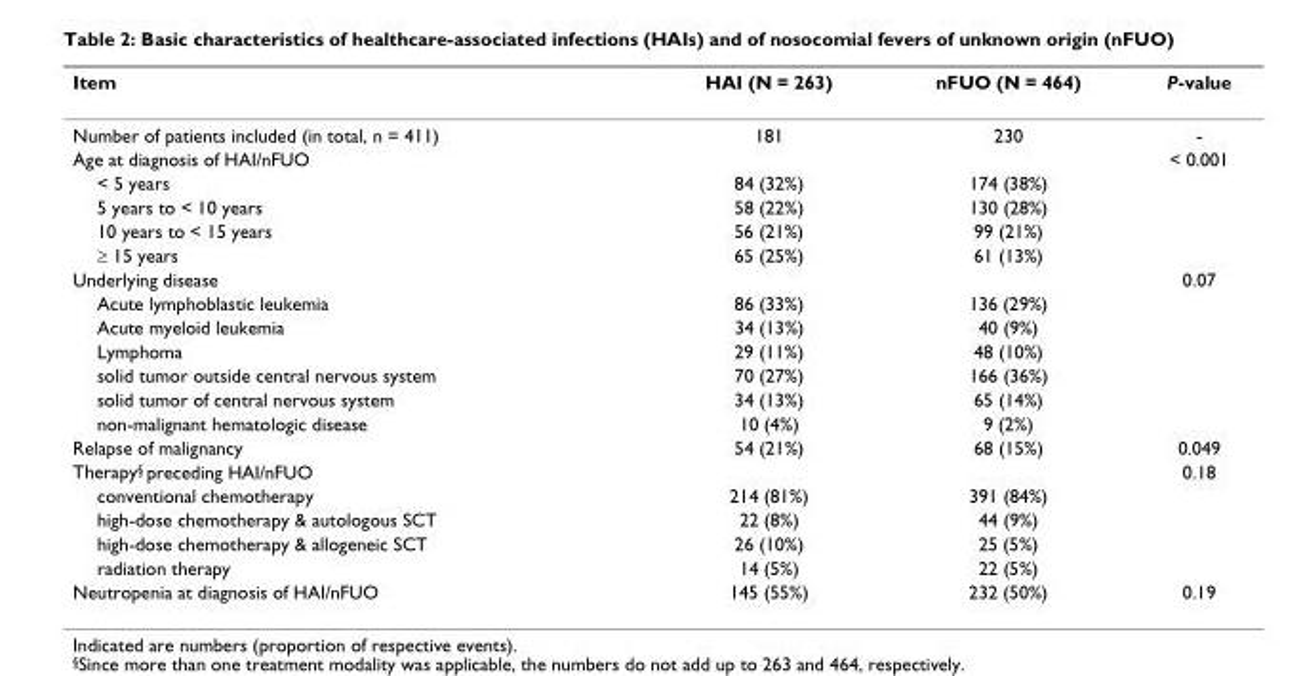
<table><thead><tr><td>Item</td><td>HAI (N = 263)</td><td>nFUO (N = 464)</td><td>P-value</td></tr></thead><tbody><tr><td>Number of patients included (in total, n = 411)</td><td>181</td><td>230</td><td>-</td></tr><tr><td>Age at diagnosis of HAI/nFUO</td><td></td><td></td><td>&lt; 0.001</td></tr><tr><td>&lt; 5 years</td><td>84 (32%)</td><td>174 (38%)</td><td></td></tr><tr><td>5 years to &lt; 10 years</td><td>58 (22%)</td><td>130 (28%)</td><td></td></tr><tr><td>10 years to &lt; 15 years</td><td>56 (21%)</td><td>99 (21%)</td><td></td></tr><tr><td>≥ 15 years</td><td>65 (25%)</td><td>61 (13%)</td><td></td></tr><tr><td>Underlying disease</td><td></td><td></td><td>0.07</td></tr><tr><td>Acute lymphoblastic leukemia</td><td>86 (33%)</td><td>136 (29%)</td><td></td></tr><tr><td>Acute myeloid leukemia</td><td>34 (13%)</td><td>40 (9%)</td><td></td></tr><tr><td>Lymphoma</td><td>29 (11%)</td><td>48 (10%)</td><td></td></tr><tr><td>solid tumor outside central nervous system</td><td>70 (27%)</td><td>166 (36%)</td><td></td></tr><tr><td>solid tumor of central nervous system</td><td>34 (13%)</td><td>65 (14%)</td><td></td></tr><tr><td>non-malignant hematologic disease</td><td>10 (4%)</td><td>9 (2%)</td><td></td></tr><tr><td>Relapse of malignancy</td><td>54 (21%)</td><td>68 (15%)</td><td>0.049</td></tr><tr><td>Therapy<sup>§</sup> preceding HAI/nFUO</td><td></td><td></td><td>0.18</td></tr><tr><td>conventional chemotherapy</td><td>214 (81%)</td><td>391 (84%)</td><td></td></tr><tr><td>high-dose chemotherapy &amp; autologous SCT</td><td>22 (8%)</td><td>44 (9%)</td><td></td></tr><tr><td>high-dose chemotherapy &amp; allogeneic SCT</td><td>26 (10%)</td><td>25 (5%)</td><td></td></tr><tr><td>radiation therapy</td><td>14 (5%)</td><td>22 (5%)</td><td></td></tr><tr><td>Neutropenia at diagnosis of HAI/nFUO</td><td>145 (55%)</td><td>232 (50%)</td><td>0.19</td></tr></tbody></table>